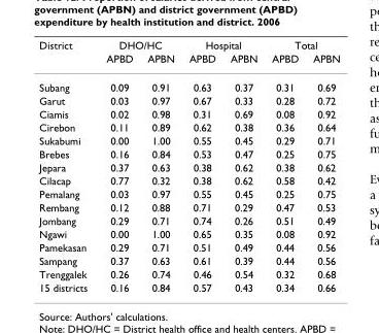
<table><thead><tr><td rowspan="2">District</td><td colspan="2">DHO/HC</td><td colspan="2">Hospital</td><td colspan="2">Total</td></tr><tr><td>APBD</td><td>APBN</td><td>APBD</td><td>APBN</td><td>APBD</td><td>APBN</td></tr></thead><tbody><tr><td>Subang</td><td>0.09</td><td>0.91</td><td>0.63</td><td>0.37</td><td>0.31</td><td>0.69</td></tr><tr><td>Garut</td><td>0.03</td><td>0.97</td><td>0.67</td><td>0.33</td><td>0.28</td><td>0.72</td></tr><tr><td>Ciamis</td><td>0.02</td><td>0.98</td><td>0.31</td><td>0.69</td><td>0.08</td><td>0.92</td></tr><tr><td>Cirebon</td><td>0.11</td><td>0.89</td><td>0.62</td><td>0.38</td><td>0.36</td><td>0.64</td></tr><tr><td>Sukabumi</td><td>0.00</td><td>1.00</td><td>0.55</td><td>0.45</td><td>0.29</td><td>0.71</td></tr><tr><td>Brebes</td><td>0.16</td><td>0.84</td><td>0.53</td><td>0.47</td><td>0.25</td><td>0.75</td></tr><tr><td>Jepara</td><td>0.37</td><td>0.63</td><td>0.38</td><td>0.62</td><td>0.38</td><td>0.62</td></tr><tr><td>Cilacap</td><td>0.77</td><td>0.32</td><td>0.38</td><td>0.62</td><td>0.58</td><td>0.42</td></tr><tr><td>Pemalang</td><td>0.03</td><td>0.97</td><td>0.55</td><td>0.45</td><td>0.25</td><td>0.75</td></tr><tr><td>Rembang</td><td>0.12</td><td>0.88</td><td>0.71</td><td>0.29</td><td>0.47</td><td>0.53</td></tr><tr><td>Jombang</td><td>0.29</td><td>0.71</td><td>0.74</td><td>0.26</td><td>0.51</td><td>0.49</td></tr><tr><td>Ngawi</td><td>0.00</td><td>1.00</td><td>0.65</td><td>0.35</td><td>0.08</td><td>0.92</td></tr><tr><td>Pamekasan</td><td>0.29</td><td>0.71</td><td>0.51</td><td>0.49</td><td>0.44</td><td>0.56</td></tr><tr><td>Sampang</td><td>0.37</td><td>0.63</td><td>0.61</td><td>0.39</td><td>0.44</td><td>0.56</td></tr><tr><td>Trenggalek</td><td>0.26</td><td>0.74</td><td>0.46</td><td>0.54</td><td>0.32</td><td>0.68</td></tr><tr><td>15 districts</td><td>0.16</td><td>0.84</td><td>0.57</td><td>0.43</td><td>0.34</td><td>0.66</td></tr></tbody></table>